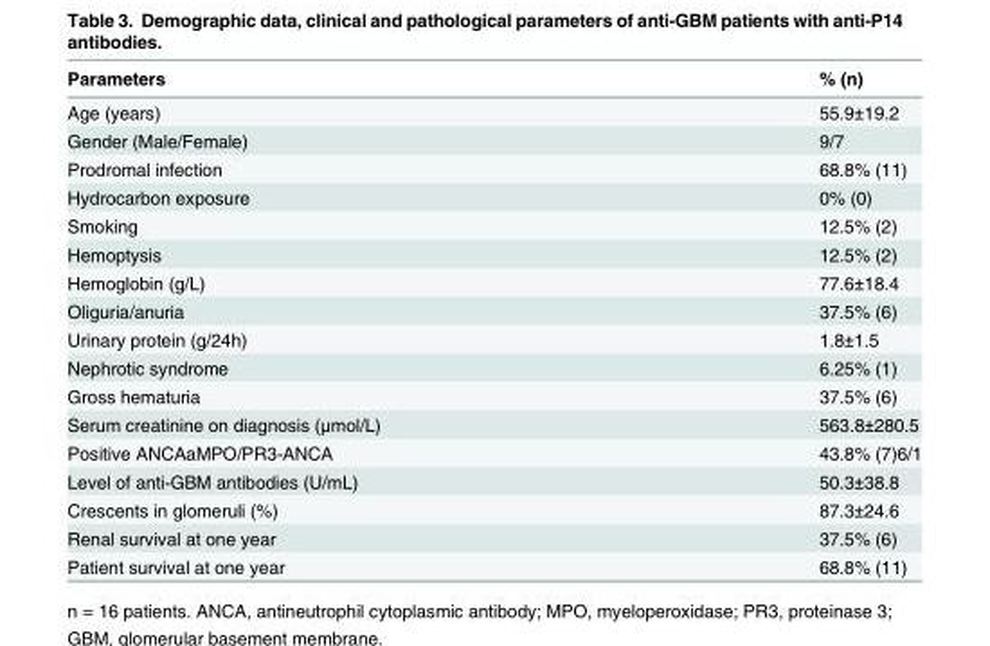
<table><thead><tr><td>Parameters</td><td>% (n)</td></tr></thead><tbody><tr><td>Age (years)</td><td>55.9±19.2</td></tr><tr><td>Gender (Male/Female)</td><td>9/7</td></tr><tr><td>Prodromal infection</td><td>68.8% (11)</td></tr><tr><td>Hydrocarbon exposure</td><td>0% (0)</td></tr><tr><td>Smoking</td><td>12.5% (2)</td></tr><tr><td>Hemoptysis</td><td>12.5% (2)</td></tr><tr><td>Hemoglobin (g/L)</td><td>77.6±18.4</td></tr><tr><td>Oliguria/anuria</td><td>37.5% (6)</td></tr><tr><td>Urinary protein (g/24h)</td><td>1.8±1.5</td></tr><tr><td>Nephrotic syndrome</td><td>6.25% (1)</td></tr><tr><td>Gross hematuria</td><td>37.5% (6)</td></tr><tr><td>Serum creatinine on diagnosis (μmol/L)</td><td>563.8±280.5</td></tr><tr><td>Positive ANCAaMPO/PR3-ANCA</td><td>43.8% (7)6/1</td></tr><tr><td>Level of anti-GBM antibodies (U/mL)</td><td>50.3±38.8</td></tr><tr><td>Crescents in glomeruli (%)</td><td>87.3±24.6</td></tr><tr><td>Renal survival at one year</td><td>37.5% (6)</td></tr><tr><td>Patient survival at one year</td><td>68.8% (11)</td></tr></tbody></table>